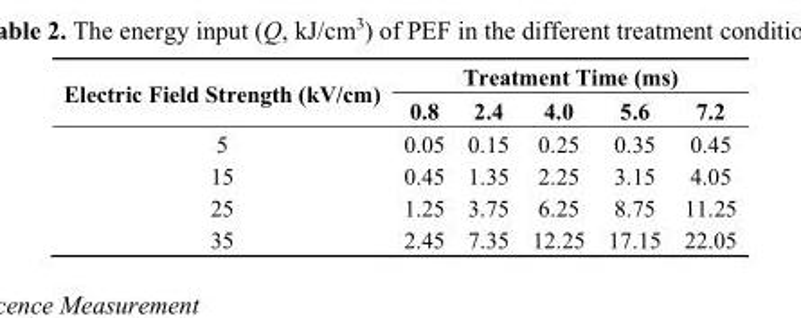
<table><thead><tr><td rowspan="2">Electric Field Strength (kV/cm)</td><td colspan="5">Treatment Time (ms)</td></tr><tr><td>0.8</td><td>2.4</td><td>4.0</td><td>5.6</td><td>7.2</td></tr></thead><tbody><tr><td>5</td><td>0.05</td><td>0.15</td><td>0.25</td><td>0.35</td><td>0.45</td></tr><tr><td>15</td><td>0.45</td><td>1.35</td><td>2.25</td><td>3.15</td><td>4.05</td></tr><tr><td>25</td><td>1.25</td><td>3.75</td><td>6.25</td><td>8.75</td><td>11.25</td></tr><tr><td>35</td><td>2.45</td><td>7.35</td><td>12.25</td><td>17.15</td><td>22.05</td></tr></tbody></table>